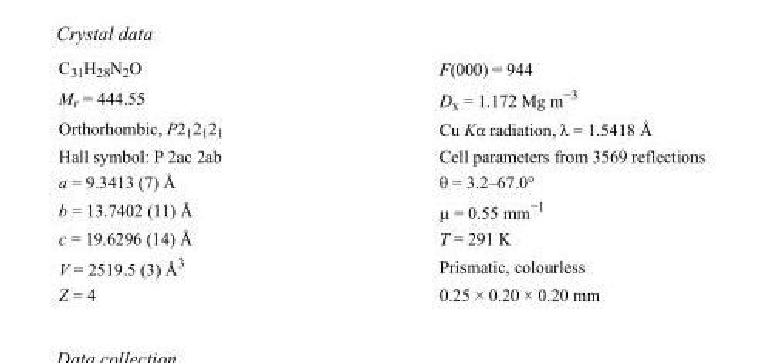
<table><tbody><tr><td>C<sub>31</sub>H<sub>28</sub>N<sub>2</sub>O</td><td>F(000) = 944</td></tr><tr><td>M<sub>r</sub> = 444.55</td><td>D<sub>x</sub> = 1.172 Mg m<sup>−3</sup></td></tr><tr><td>Orthorhombic, P2<sub>1</sub>2<sub>1</sub>2<sub>1</sub></td><td>Cu Kα radiation, λ = 1.5418 Å</td></tr><tr><td>Hall symbol: P 2ac 2ab</td><td>Cell parameters from 3569 reflections</td></tr><tr><td>a = 9.3413 (7) Å</td><td>θ = 3.2–67.0°</td></tr><tr><td>b = 13.7402 (11) Å</td><td>µ = 0.55 mm<sup>−1</sup></td></tr><tr><td>c = 19.6296 (14) Å</td><td>T = 291 K</td></tr><tr><td>V = 2519.5 (3) Å<sup>3</sup></td><td>Prismatic, colourless</td></tr><tr><td>Z = 4</td><td>0.25 × 0.20 × 0.20 mm</td></tr></tbody></table>